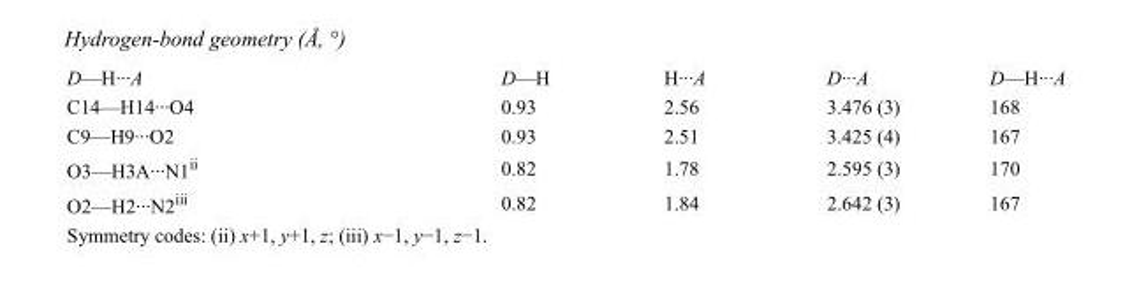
<table><tbody><tr><td>D—H···A</td><td>D—H</td><td>H···A</td><td>D···A</td><td>D—H···A</td></tr><tr><td>C14—H14···O4</td><td>0.93</td><td>2.56</td><td>3.476 (3)</td><td>168</td></tr><tr><td>C9—H9···O2</td><td>0.93</td><td>2.51</td><td>3.425 (4)</td><td>167</td></tr><tr><td>O3—H3A···N1<sup>ii</sup></td><td>0.82</td><td>1.78</td><td>2.595 (3)</td><td>170</td></tr><tr><td>O2—H2···N2<sup>iii</sup></td><td>0.82</td><td>1.84</td><td>2.642 (3)</td><td>167</td></tr></tbody></table>